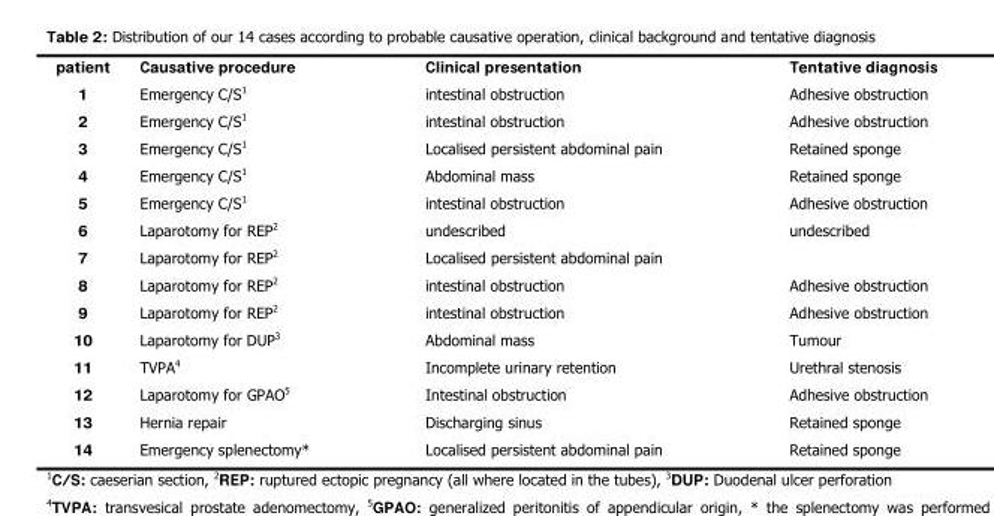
<table><thead><tr><td>patient</td><td>Causative procedure</td><td>Clinical presentation</td><td>Tentative diagnosis</td></tr></thead><tbody><tr><td>1</td><td>Emergency C/S<sup>1</sup></td><td>intestinal obstruction</td><td>Adhesive obstruction</td></tr><tr><td>2</td><td>Emergency C/S<sup>1</sup></td><td>intestinal obstruction</td><td>Adhesive obstruction</td></tr><tr><td>3</td><td>Emergency C/S<sup>1</sup></td><td>Localised persistent abdominal pain</td><td>Retained sponge</td></tr><tr><td>4</td><td>Emergency C/S<sup>1</sup></td><td>Abdominal mass</td><td>Retained sponge</td></tr><tr><td>5</td><td>Emergency C/S<sup>1</sup></td><td>intestinal obstruction</td><td>Adhesive obstruction</td></tr><tr><td>6</td><td>Laparotomy for REP<sup>2</sup></td><td>undescribed</td><td>undescribed</td></tr><tr><td>7</td><td>Laparotomy for REP<sup>2</sup></td><td>Localised persistent abdominal pain</td><td></td></tr><tr><td>8</td><td>Laparotomy for REP<sup>2</sup></td><td>intestinal obstruction</td><td>Adhesive obstruction</td></tr><tr><td>9</td><td>Laparotomy for REP<sup>2</sup></td><td>intestinal obstruction</td><td>Adhesive obstruction</td></tr><tr><td>10</td><td>Laparotomy for DUP<sup>3</sup></td><td>Abdominal mass</td><td>Tumour</td></tr><tr><td>11</td><td>TVPA<sup>4</sup></td><td>Incomplete urinary retention</td><td>Urethral stenosis</td></tr><tr><td>12</td><td>Laparotomy for GPAO<sup>5</sup></td><td>Intestinal obstruction</td><td>Adhesive obstruction</td></tr><tr><td>13</td><td>Hernia repair</td><td>Discharging sinus</td><td>Retained sponge</td></tr><tr><td>14</td><td>Emergency splenectomy*</td><td>Localised persistent abdominal pain</td><td>Retained sponge</td></tr></tbody></table>